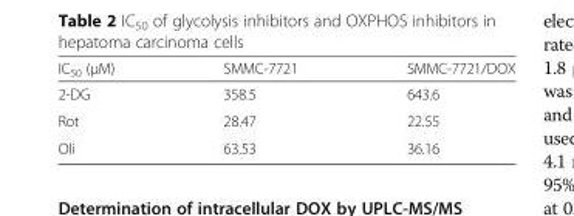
<table><thead><tr><td>IC<sub>50</sub> (μM)</td><td>SMMC-7721</td><td>SMMC-7721/DOX</td></tr></thead><tbody><tr><td>2-DG</td><td>358.5</td><td>643.6</td></tr><tr><td>Rot</td><td>28.47</td><td>22.55</td></tr><tr><td>Oli</td><td>63.53</td><td>36.16</td></tr></tbody></table>